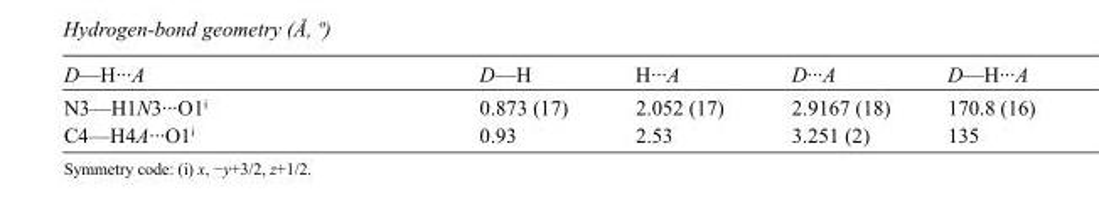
<table><tbody><tr><td>D—H···A</td><td>D—H</td><td>H···A</td><td>D···A</td><td>D—H···A</td></tr><tr><td>N3—H1N3···O1<sup>i</sup></td><td>0.873 (17)</td><td>2.052 (17)</td><td>2.9167 (18)</td><td>170.8 (16)</td></tr><tr><td>C4—H4A···O1<sup>i</sup></td><td>0.93</td><td>2.53</td><td>3.251 (2)</td><td>135</td></tr></tbody></table>